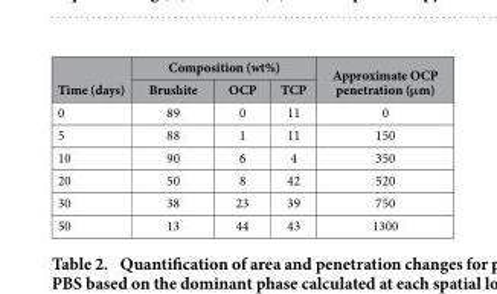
<table><thead><tr><td rowspan="2">Time (days)</td><td colspan="3">Composition (wt%)</td><td rowspan="2">Approximate OCP penetration (μm)</td></tr><tr><td>Brushite</td><td>OCP</td><td>TCP</td></tr></thead><tbody><tr><td>0</td><td>89</td><td>0</td><td>11</td><td>0</td></tr><tr><td>5</td><td>88</td><td>1</td><td>11</td><td>150</td></tr><tr><td>10</td><td>90</td><td>6</td><td>4</td><td>350</td></tr><tr><td>20</td><td>50</td><td>8</td><td>42</td><td>520</td></tr><tr><td>30</td><td>38</td><td>23</td><td>39</td><td>750</td></tr><tr><td>50</td><td>13</td><td>44</td><td>43</td><td>1300</td></tr></tbody></table>